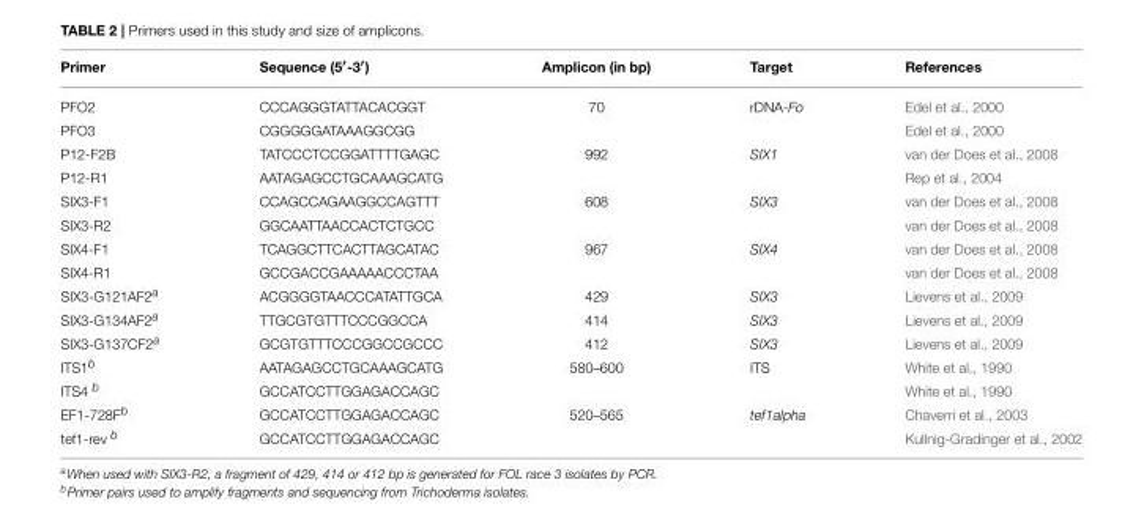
<table><thead><tr><td>Primer</td><td>Sequence (5′-3′)</td><td>Amplicon (in bp)</td><td>Target</td><td>References</td></tr></thead><tbody><tr><td>PFO2</td><td>CCCAGGGTATTACACGGT</td><td>70</td><td>rDNA-Fo</td><td>Edel et al., 2000</td></tr><tr><td>PFO3</td><td>CGGGGGATAAAGGCGG</td><td></td><td></td><td>Edel et al., 2000</td></tr><tr><td>P12-F2B</td><td>TATCCCTCCGGATTTTGAGC</td><td>992</td><td>SIX1</td><td>van der Does et al., 2008</td></tr><tr><td>P12-R1</td><td>AATAGAGCCTGCAAAGCATG</td><td></td><td></td><td>Rep et al., 2004</td></tr><tr><td>SIX3-F1</td><td>CCAGCCAGAAGGCCAGTTT</td><td>608</td><td>SIX3</td><td>van der Does et al., 2008</td></tr><tr><td>SIX3-R2</td><td>GGCAATTAACCACTCTGCC</td><td></td><td></td><td>van der Does et al., 2008</td></tr><tr><td>SIX4-F1</td><td>TCAGGCTTCACTTAGCATAC</td><td>967</td><td>SIX4</td><td>van der Does et al., 2008</td></tr><tr><td>SIX4-R1</td><td>GCCGACCGAAAAACCCTAA</td><td></td><td></td><td>van der Does et al., 2008</td></tr><tr><td>SIX3-G121AF2<sup>a</sup></td><td>ACGGGGTAACCCATATTGCA</td><td>429</td><td>SIX3</td><td>Lievens et al., 2009</td></tr><tr><td>SIX3-G134AF2<sup>a</sup></td><td>TTGCGTGTTTCCCGGCCA</td><td>414</td><td>SIX3</td><td>Lievens et al., 2009</td></tr><tr><td>SIX3-G137CF2<sup>a</sup></td><td>GCGTGTTTCCCGGCCGCCC</td><td>412</td><td>SIX3</td><td>Lievens et al., 2009</td></tr><tr><td>ITS1<sup>b</sup></td><td>AATAGAGCCTGCAAAGCATG</td><td>580–600</td><td>ITS</td><td>White et al., 1990</td></tr><tr><td>ITS4 <sup>b</sup></td><td>GCCATCCTTGGAGACCAGC</td><td></td><td></td><td>White et al., 1990</td></tr><tr><td>EF1-728F<sup>b</sup></td><td>GCCATCCTTGGAGACCAGC</td><td>520–565</td><td>tef1alpha</td><td>Chaverri et al., 2003</td></tr><tr><td>tef1-rev <sup>b</sup></td><td>GCCATCCTTGGAGACCAGC</td><td></td><td></td><td>Kullnig-Gradinger et al., 2002</td></tr></tbody></table>